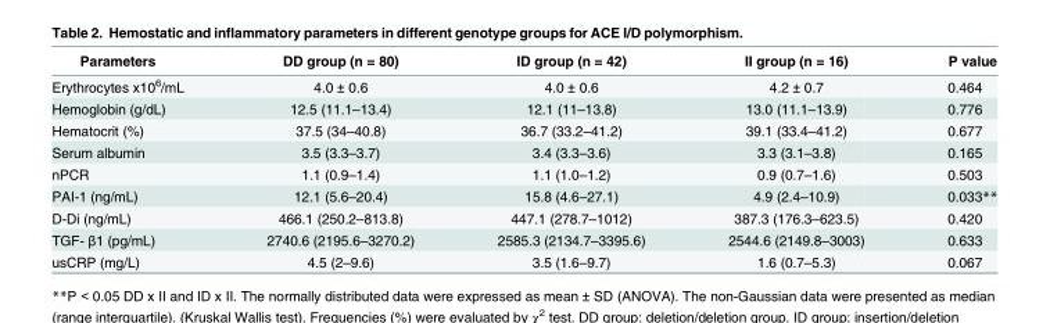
<table><thead><tr><td>Parameters</td><td>DD group (n = 80)</td><td>ID group (n = 42)</td><td>II group (n = 16)</td><td>P value</td></tr></thead><tbody><tr><td>Erythrocytes x10<sup>6</sup>/mL</td><td>4.0 ± 0.6</td><td>4.0 ± 0.6</td><td>4.2 ± 0.7</td><td>0.464</td></tr><tr><td>Hemoglobin (g/dL)</td><td>12.5 (11.1–13.4)</td><td>12.1 (11–13.8)</td><td>13.0 (11.1–13.9)</td><td>0.776</td></tr><tr><td>Hematocrit (%)</td><td>37.5 (34–40.8)</td><td>36.7 (33.2–41.2)</td><td>39.1 (33.4–41.2)</td><td>0.677</td></tr><tr><td>Serum albumin</td><td>3.5 (3.3–3.7)</td><td>3.4 (3.3–3.6)</td><td>3.3 (3.1–3.8)</td><td>0.165</td></tr><tr><td>nPCR</td><td>1.1 (0.9–1.4)</td><td>1.1 (1.0–1.2)</td><td>0.9 (0.7–1.6)</td><td>0.503</td></tr><tr><td>PAI-1 (ng/mL)</td><td>12.1 (5.6–20.4)</td><td>15.8 (4.6–27.1)</td><td>4.9 (2.4–10.9)</td><td>0.033**</td></tr><tr><td>D-Di (ng/mL)</td><td>466.1 (250.2–813.8)</td><td>447.1 (278.7–1012)</td><td>387.3 (176.3–623.5)</td><td>0.420</td></tr><tr><td>TGF- β1 (pg/mL)</td><td>2740.6 (2195.6–3270.2)</td><td>2585.3 (2134.7–3395.6)</td><td>2544.6 (2149.8–3003)</td><td>0.633</td></tr><tr><td>usCRP (mg/L)</td><td>4.5 (2–9.6)</td><td>3.5 (1.6–9.7)</td><td>1.6 (0.7–5.3)</td><td>0.067</td></tr></tbody></table>